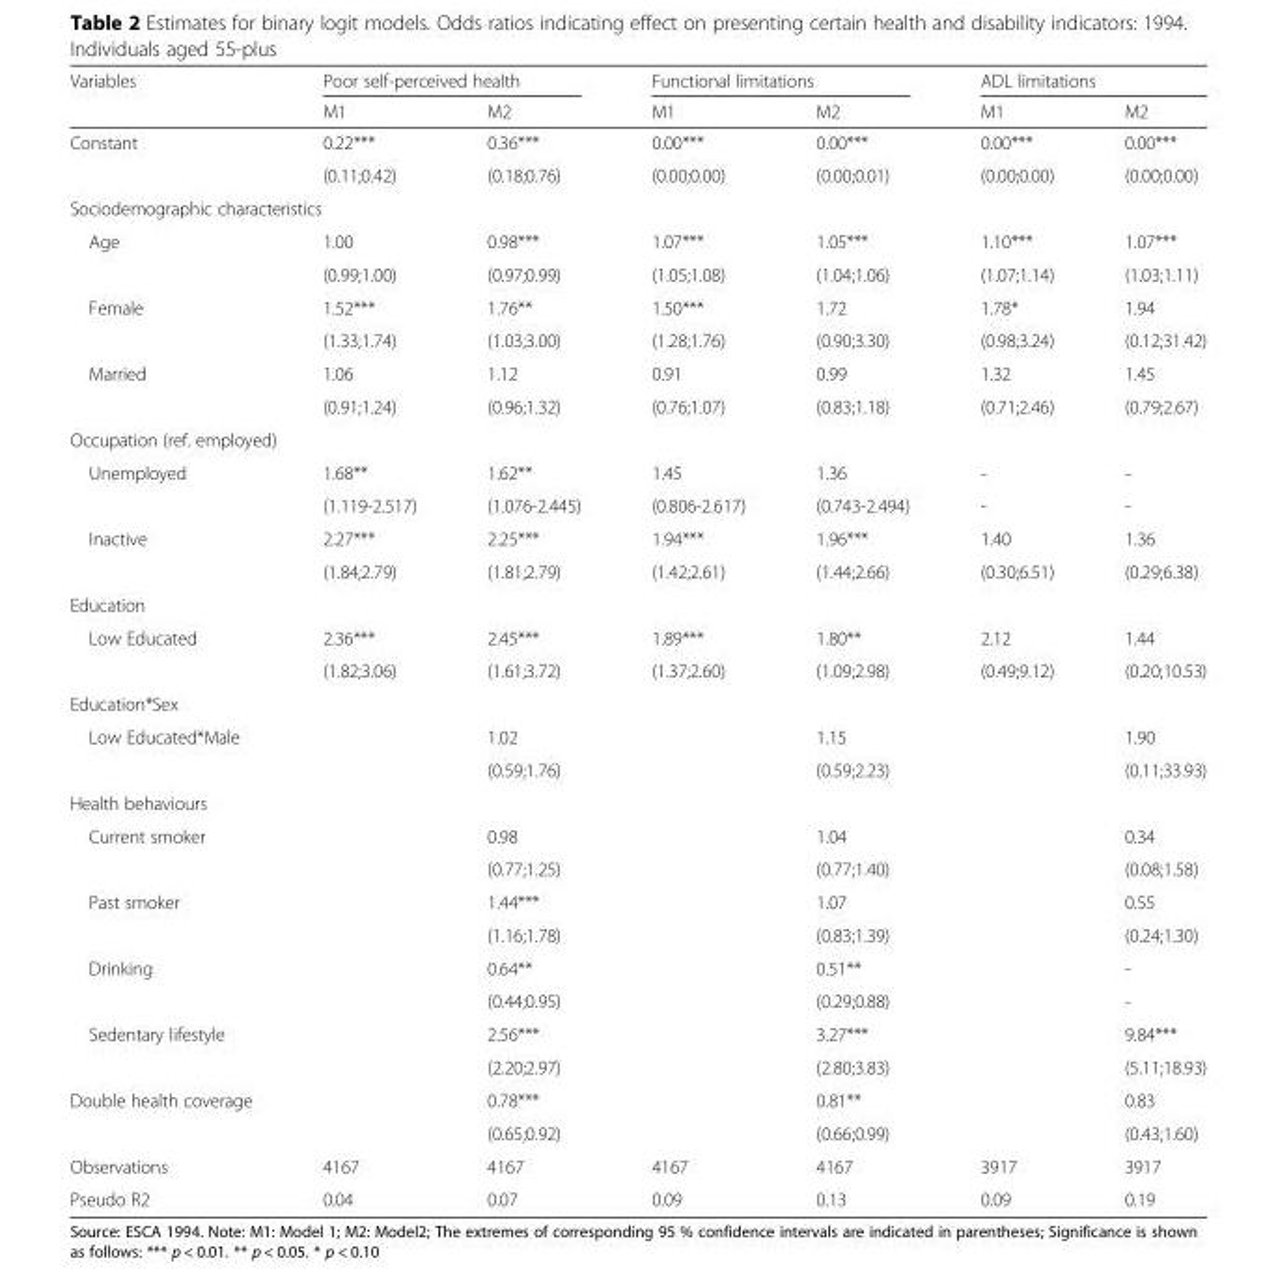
<table><thead><tr><td rowspan="2">Variables</td><td colspan="2">Poor self-perceived health</td><td colspan="2">Functional limitations</td><td colspan="2">ADL limitations</td></tr><tr><td>M1</td><td>M2</td><td>M1</td><td>M2</td><td>M1</td><td>M2</td></tr></thead><tbody><tr><td rowspan="2">Constant</td><td>0.22***</td><td>0.36***</td><td>0.00***</td><td>0.00***</td><td>0.00***</td><td>0.00***</td></tr><tr><td>(0.11;0.42)</td><td>(0.18;0.76)</td><td>(0.00;0.00)</td><td>(0.00;0.01)</td><td>(0.00;0.00)</td><td>(0.00;0.00)</td></tr><tr><td colspan="7">Sociodemographic characteristics</td></tr><tr><td rowspan="2">Age</td><td>1.00</td><td>0.98***</td><td>1.07***</td><td>1.05***</td><td>1.10***</td><td>1.07***</td></tr><tr><td>(0.99;1.00)</td><td>(0.97;0.99)</td><td>(1.05;1.08)</td><td>(1.04;1.06)</td><td>(1.07;1.14)</td><td>(1.03;1.11)</td></tr><tr><td rowspan="2">Female</td><td>1.52***</td><td>1.76**</td><td>1.50***</td><td>1.72</td><td>1.78*</td><td>1.94</td></tr><tr><td>(1.33;1.74)</td><td>(1.03;3.00)</td><td>(1.28;1.76)</td><td>(0.90;3.30)</td><td>(0.98;3.24)</td><td>(0.12;31.42)</td></tr><tr><td rowspan="2">Married</td><td>1.06</td><td>1.12</td><td>0.91</td><td>0.99</td><td>1.32</td><td>1.45</td></tr><tr><td>(0.91;1.24)</td><td>(0.96;1.32)</td><td>(0.76;1.07)</td><td>(0.83;1.18)</td><td>(0.71;2.46)</td><td>(0.79;2.67)</td></tr><tr><td colspan="7">Occupation (ref. employed)</td></tr><tr><td rowspan="2">Unemployed</td><td>1.68**</td><td>1.62**</td><td>1.45</td><td>1.36</td><td>-</td><td>-</td></tr><tr><td>(1.119-2.517)</td><td>(1.076-2.445)</td><td>(0.806-2.617)</td><td>(0.743-2.494)</td><td>-</td><td>-</td></tr><tr><td rowspan="2">Inactive</td><td>2.27***</td><td>2.25***</td><td>1.94***</td><td>1.96***</td><td>1.40</td><td>1.36</td></tr><tr><td>(1.84;2.79)</td><td>(1.81;2.79)</td><td>(1.42;2.61)</td><td>(1.44;2.66)</td><td>(0.30;6.51)</td><td>(0.29;6.38)</td></tr><tr><td colspan="7">Education</td></tr><tr><td rowspan="2">Low Educated</td><td>2.36***</td><td>2.45***</td><td>1.89***</td><td>1.80**</td><td>2.12</td><td>1.44</td></tr><tr><td>(1.82;3.06)</td><td>(1.61;3.72)</td><td>(1.37;2.60)</td><td>(1.09;2.98)</td><td>(0.49;9.12)</td><td>(0.20;10.53)</td></tr><tr><td colspan="7">Education*Sex</td></tr><tr><td rowspan="2">Low Educated*Male</td><td></td><td>1.02</td><td></td><td>1.15</td><td></td><td>1.90</td></tr><tr><td></td><td>(0.59;1.76)</td><td></td><td>(0.59;2.23)</td><td></td><td>(0.11;33.93)</td></tr><tr><td colspan="7">Health behaviours</td></tr><tr><td rowspan="2">Current smoker</td><td></td><td>0.98</td><td></td><td>1.04</td><td></td><td>0.34</td></tr><tr><td></td><td>(0.77;1.25)</td><td></td><td>(0.77;1.40)</td><td></td><td>(0.08;1.58)</td></tr><tr><td rowspan="2">Past smoker</td><td></td><td>1.44***</td><td></td><td>1.07</td><td></td><td>0.55</td></tr><tr><td></td><td>(1.16;1.78)</td><td></td><td>(0.83;1.39)</td><td></td><td>(0.24;1.30)</td></tr><tr><td rowspan="2">Drinking</td><td></td><td>0.64**</td><td></td><td>0.51**</td><td></td><td>-</td></tr><tr><td></td><td>(0.44;0.95)</td><td></td><td>(0.29;0.88)</td><td></td><td>-</td></tr><tr><td rowspan="2">Sedentary lifestyle</td><td></td><td>2.56***</td><td></td><td>3.27***</td><td></td><td>9.84***</td></tr><tr><td></td><td>(2.20;2.97)</td><td></td><td>(2.80;3.83)</td><td></td><td>(5.11;18.93)</td></tr><tr><td rowspan="2">Double health coverage</td><td></td><td>0.78***</td><td></td><td>0.81**</td><td></td><td>0.83</td></tr><tr><td></td><td>(0.65;0.92)</td><td></td><td>(0.66;0.99)</td><td></td><td>(0.43;1.60)</td></tr><tr><td>Observations</td><td>4167</td><td>4167</td><td>4167</td><td>4167</td><td>3917</td><td>3917</td></tr><tr><td>Pseudo R2</td><td>0.04</td><td>0.07</td><td>0.09</td><td>0.13</td><td>0.09</td><td>0.19</td></tr></tbody></table>